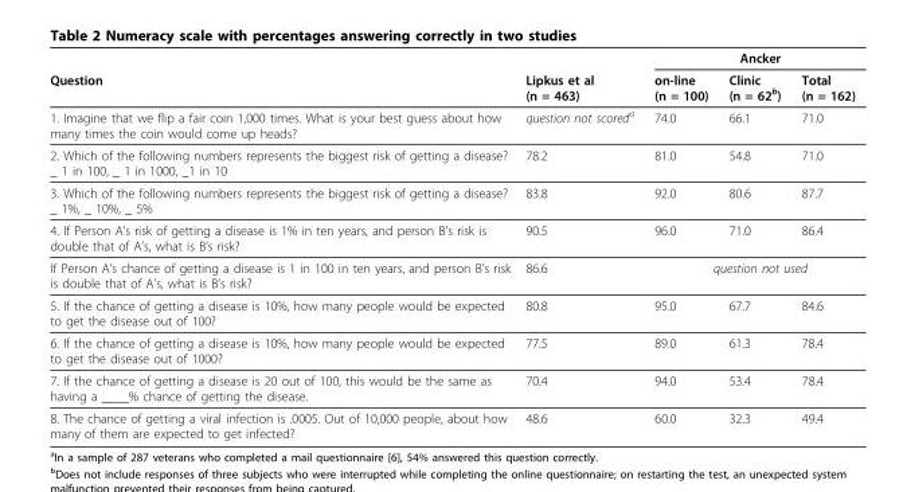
<table><thead><tr><td rowspan="2">Question</td><td rowspan="2">Lipkus et al (n = 463)</td><td colspan="3">Ancker</td></tr><tr><td>on-line (n = 100)</td><td>Clinic (n = 62<sup>b</sup>)</td><td>Total (n = 162)</td></tr></thead><tbody><tr><td>1. Imagine that we flip a fair coin 1,000 times. What is your best guess about how many times the coin would come up heads?</td><td>question not scored<sup>a</sup></td><td>74.0</td><td>66.1</td><td>71.0</td></tr><tr><td>2. Which of the following numbers represents the biggest risk of getting a disease? _ 1 in 100, _ 1 in 1000, _1 in 10</td><td>78.2</td><td>81.0</td><td>54.8</td><td>71.0</td></tr><tr><td>3. Which of the following numbers represents the biggest risk of getting a disease? _ 1%, _ 10%, _ 5%</td><td>83.8</td><td>92.0</td><td>80.6</td><td>87.7</td></tr><tr><td>4. If Person A’s risk of getting a disease is 1% in ten years, and person B’s risk is double that of A’s, what is B’s risk?</td><td>90.5</td><td>96.0</td><td>71.0</td><td>86.4</td></tr><tr><td>If Person A’s chance of getting a disease is 1 in 100 in ten years, and person B’s risk is double that of A’s, what is B’s risk?</td><td>86.6</td><td colspan="3">question not used</td></tr><tr><td>5. If the chance of getting a disease is 10%, how many people would be expected to get the disease out of 100?</td><td>80.8</td><td>95.0</td><td>67.7</td><td>84.6</td></tr><tr><td>6. If the chance of getting a disease is 10%, how many people would be expected to get the disease out of 1000?</td><td>77.5</td><td>89.0</td><td>61.3</td><td>78.4</td></tr><tr><td>7. If the chance of getting a disease is 20 out of 100, this would be the same as having a ____% chance of getting the disease.</td><td>70.4</td><td>94.0</td><td>53.4</td><td>78.4</td></tr><tr><td>8. The chance of getting a viral infection is .0005. Out of 10,000 people, about how many of them are expected to get infected?</td><td>48.6</td><td>60.0</td><td>32.3</td><td>49.4</td></tr></tbody></table>